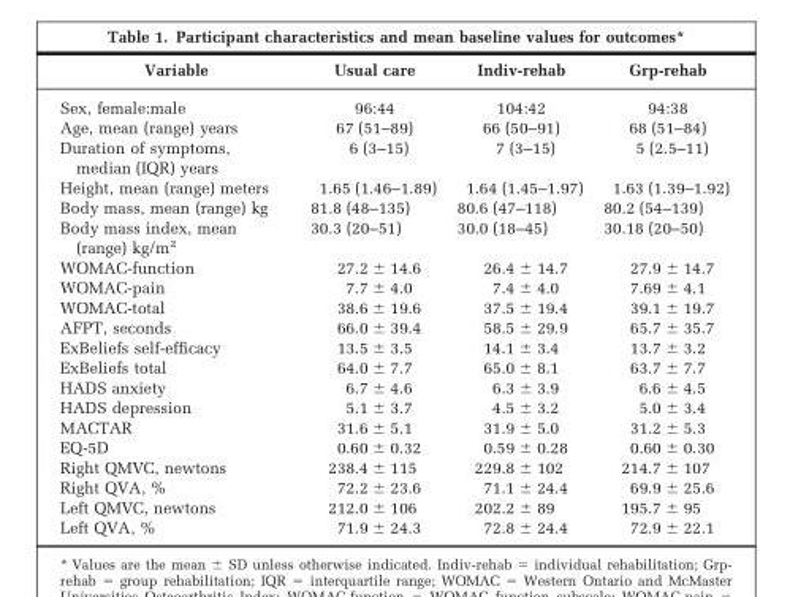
<table><thead><tr><td>Variable</td><td>Usual care</td><td>Indiv-rehab</td><td>Grp-rehab</td></tr></thead><tbody><tr><td>Sex, female:male</td><td>96:44</td><td>104:42</td><td>94:38</td></tr><tr><td>Age, mean (range) years</td><td>67 (51–89)</td><td>66 (50–91)</td><td>68 (51–84)</td></tr><tr><td>Duration of symptoms, median (IQR) years</td><td>6 (3–15)</td><td>7 (3–15)</td><td>5 (2.5–11)</td></tr><tr><td>Height, mean (range) meters</td><td>1.65 (1.46–1.89)</td><td>1.64 (1.45–1.97)</td><td>1.63 (1.39–1.92)</td></tr><tr><td>Body mass, mean (range) kg</td><td>81.8 (48–135)</td><td>80.6 (47–118)</td><td>80.2 (54–139)</td></tr><tr><td>Body mass index, mean (range) kg/m<sup>2</sup></td><td>30.3 (20–51)</td><td>30.0 (18–45)</td><td>30.18 (20–50)</td></tr><tr><td>WOMAC-function</td><td>27.2 ± 14.6</td><td>26.4 ± 14.7</td><td>27.9 ± 14.7</td></tr><tr><td>WOMAC-pain</td><td>7.7 ± 4.0</td><td>7.4 ± 4.0</td><td>7.69 ± 4.1</td></tr><tr><td>WOMAC-total</td><td>38.6 ± 19.6</td><td>37.5 ± 19.4</td><td>39.1 ± 19.7</td></tr><tr><td>AFPT, seconds</td><td>66.0 ± 39.4</td><td>58.5 ± 29.9</td><td>65.7 ± 35.7</td></tr><tr><td>ExBeliefs self-efficacy</td><td>13.5 ± 3.5</td><td>14.1 ± 3.4</td><td>13.7 ± 3.2</td></tr><tr><td>ExBeliefs total</td><td>64.0 ± 7.7</td><td>65.0 ± 8.1</td><td>63.7 ± 7.7</td></tr><tr><td>HADS anxiety</td><td>6.7 ± 4.6</td><td>6.3 ± 3.9</td><td>6.6 ± 4.5</td></tr><tr><td>HADS depression</td><td>5.1 ± 3.7</td><td>4.5 ± 3.2</td><td>5.0 ± 3.4</td></tr><tr><td>MACTAR</td><td>31.6 ± 5.1</td><td>31.9 ± 5.0</td><td>31.2 ± 5.3</td></tr><tr><td>EQ-5D</td><td>0.60 ± 0.32</td><td>0.59 ± 0.28</td><td>0.60 ± 0.30</td></tr><tr><td>Right QMVC, newtons</td><td>238.4 ± 115</td><td>229.8 ± 102</td><td>214.7 ± 107</td></tr><tr><td>Right QVA, %</td><td>72.2 ± 23.6</td><td>71.1 ± 24.4</td><td>69.9 ± 25.6</td></tr><tr><td>Left QMVC, newtons</td><td>212.0 ± 106</td><td>202.2 ± 89</td><td>195.7 ± 95</td></tr><tr><td>Left QVA, %</td><td>71.9 ± 24.3</td><td>72.8 ± 24.4</td><td>72.9 ± 22.1</td></tr></tbody></table>